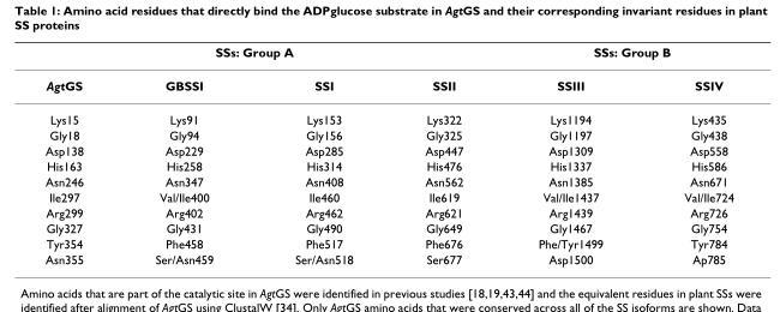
<table><thead><tr><td rowspan="2">AgtGS</td><td colspan="2">SSs: Group A</td><td rowspan="2">SSII</td><td colspan="2">SSs: Group B</td></tr><tr><td>GBSSI</td><td>SSI</td><td>SSIII</td><td>SSIV</td></tr></thead><tbody><tr><td>Lys15</td><td>Lys91</td><td>Lys153</td><td>Lys322</td><td>Lys1194</td><td>Lys435</td></tr><tr><td>Gly18</td><td>Gly94</td><td>Gly156</td><td>Gly325</td><td>Gly1197</td><td>Gly438</td></tr><tr><td>Asp138</td><td>Asp229</td><td>Asp285</td><td>Asp447</td><td>Asp1309</td><td>Asp558</td></tr><tr><td>His163</td><td>His258</td><td>His314</td><td>His476</td><td>His1337</td><td>His586</td></tr><tr><td>Asn246</td><td>Asn347</td><td>Asn408</td><td>Asn562</td><td>Asn1385</td><td>Asn671</td></tr><tr><td>Ile297</td><td>Val/Ile400</td><td>Ile460</td><td>Ile619</td><td>Val/Ile1437</td><td>Val/Ile724</td></tr><tr><td>Arg299</td><td>Arg402</td><td>Arg462</td><td>Arg621</td><td>Arg1439</td><td>Arg726</td></tr><tr><td>Gly327</td><td>Gly431</td><td>Gly490</td><td>Gly649</td><td>Gly1467</td><td>Gly754</td></tr><tr><td>Tyr354</td><td>Phe458</td><td>Phe517</td><td>Phe676</td><td>Phe/Tyr1499</td><td>Tyr784</td></tr><tr><td>Asn355</td><td>Ser/Asn459</td><td>Ser/Asn518</td><td>Ser677</td><td>Asp1500</td><td>Ap785</td></tr></tbody></table>